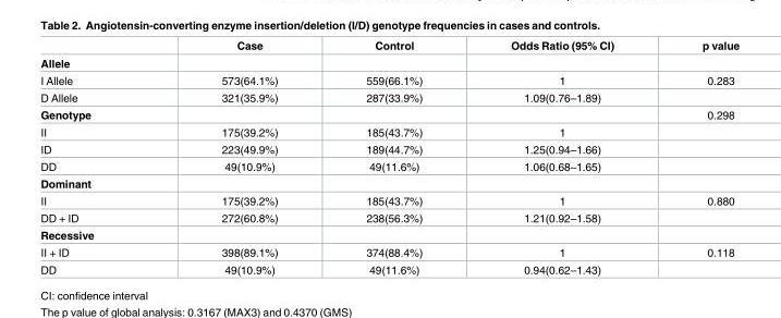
<table><thead><tr><td></td><td>Case</td><td>Control</td><td>Odds Ratio (95% CI)</td><td>p value</td></tr></thead><tbody><tr><td colspan="5">Allele</td></tr><tr><td>I Allele</td><td>573(64.1%)</td><td>559(66.1%)</td><td>1</td><td>0.283</td></tr><tr><td>D Allele</td><td>321(35.9%)</td><td>287(33.9%)</td><td>1.09(0.76–1.89)</td><td></td></tr><tr><td>Genotype</td><td></td><td></td><td></td><td>0.298</td></tr><tr><td>II</td><td>175(39.2%)</td><td>185(43.7%)</td><td>1</td><td></td></tr><tr><td>ID</td><td>223(49.9%)</td><td>189(44.7%)</td><td>1.25(0.94–1.66)</td><td></td></tr><tr><td>DD</td><td>49(10.9%)</td><td>49(11.6%)</td><td>1.06(0.68–1.65)</td><td></td></tr><tr><td colspan="5">Dominant</td></tr><tr><td>II</td><td>175(39.2%)</td><td>185(43.7%)</td><td>1</td><td>0.880</td></tr><tr><td>DD + ID</td><td>272(60.8%)</td><td>238(56.3%)</td><td>1.21(0.92–1.58)</td><td></td></tr><tr><td colspan="5">Recessive</td></tr><tr><td>II + ID</td><td>398(89.1%)</td><td>374(88.4%)</td><td>1</td><td>0.118</td></tr><tr><td>DD</td><td>49(10.9%)</td><td>49(11.6%)</td><td>0.94(0.62–1.43)</td><td></td></tr></tbody></table>